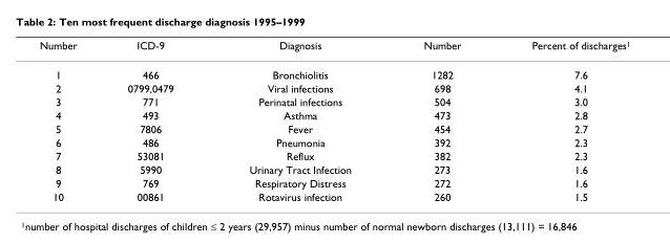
<table><thead><tr><td>Number</td><td>ICD-9</td><td>Diagnosis</td><td>Number</td><td>Percent of discharges<sup>1</sup></td></tr></thead><tbody><tr><td>1</td><td>466</td><td>Bronchiolitis</td><td>1282</td><td>7.6</td></tr><tr><td>2</td><td>0799,0479</td><td>Viral infections</td><td>698</td><td>4.1</td></tr><tr><td>3</td><td>771</td><td>Perinatal infections</td><td>504</td><td>3.0</td></tr><tr><td>4</td><td>493</td><td>Asthma</td><td>473</td><td>2.8</td></tr><tr><td>5</td><td>7806</td><td>Fever</td><td>454</td><td>2.7</td></tr><tr><td>6</td><td>486</td><td>Pneumonia</td><td>392</td><td>2.3</td></tr><tr><td>7</td><td>53081</td><td>Reflux</td><td>382</td><td>2.3</td></tr><tr><td>8</td><td>5990</td><td>Urinary Tract Infection</td><td>273</td><td>1.6</td></tr><tr><td>9</td><td>769</td><td>Respiratory Distress</td><td>272</td><td>1.6</td></tr><tr><td>10</td><td>00861</td><td>Rotavirus infection</td><td>260</td><td>1.5</td></tr></tbody></table>